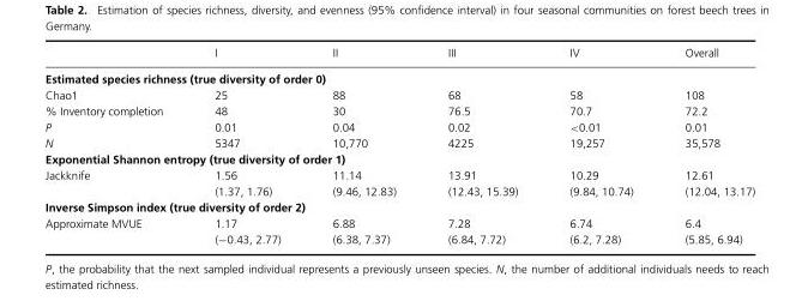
<table><thead><tr><td></td><td>I</td><td>II</td><td>III</td><td>IV</td><td>Overall</td></tr></thead><tbody><tr><td colspan="6">Estimated species richness (true diversity of order 0)</td></tr><tr><td>Chao1</td><td>25</td><td>88</td><td>68</td><td>58</td><td>108</td></tr><tr><td>% Inventory completion</td><td>48</td><td>30</td><td>76.5</td><td>70.7</td><td>72.2</td></tr><tr><td>P</td><td>0.01</td><td>0.04</td><td>0.02</td><td>&lt;0.01</td><td>0.01</td></tr><tr><td>N</td><td>5347</td><td>10,770</td><td>4225</td><td>19,257</td><td>35,578</td></tr><tr><td colspan="6">Exponential Shannon entropy (true diversity of order 1)</td></tr><tr><td rowspan="2">Jackknife</td><td>1.56</td><td>11.14</td><td>13.91</td><td>10.29</td><td>12.61</td></tr><tr><td>(1.37, 1.76)</td><td>(9.46, 12.83)</td><td>(12.43, 15.39)</td><td>(9.84, 10.74)</td><td>(12.04, 13.17)</td></tr><tr><td colspan="6">Inverse Simpson index (true diversity of order 2)</td></tr><tr><td rowspan="2">Approximate MVUE</td><td>1.17</td><td>6.88</td><td>7.28</td><td>6.74</td><td>6.4</td></tr><tr><td>(−0.43, 2.77)</td><td>(6.38, 7.37)</td><td>(6.84, 7.72)</td><td>(6.2, 7.28)</td><td>(5.85, 6.94)</td></tr></tbody></table>